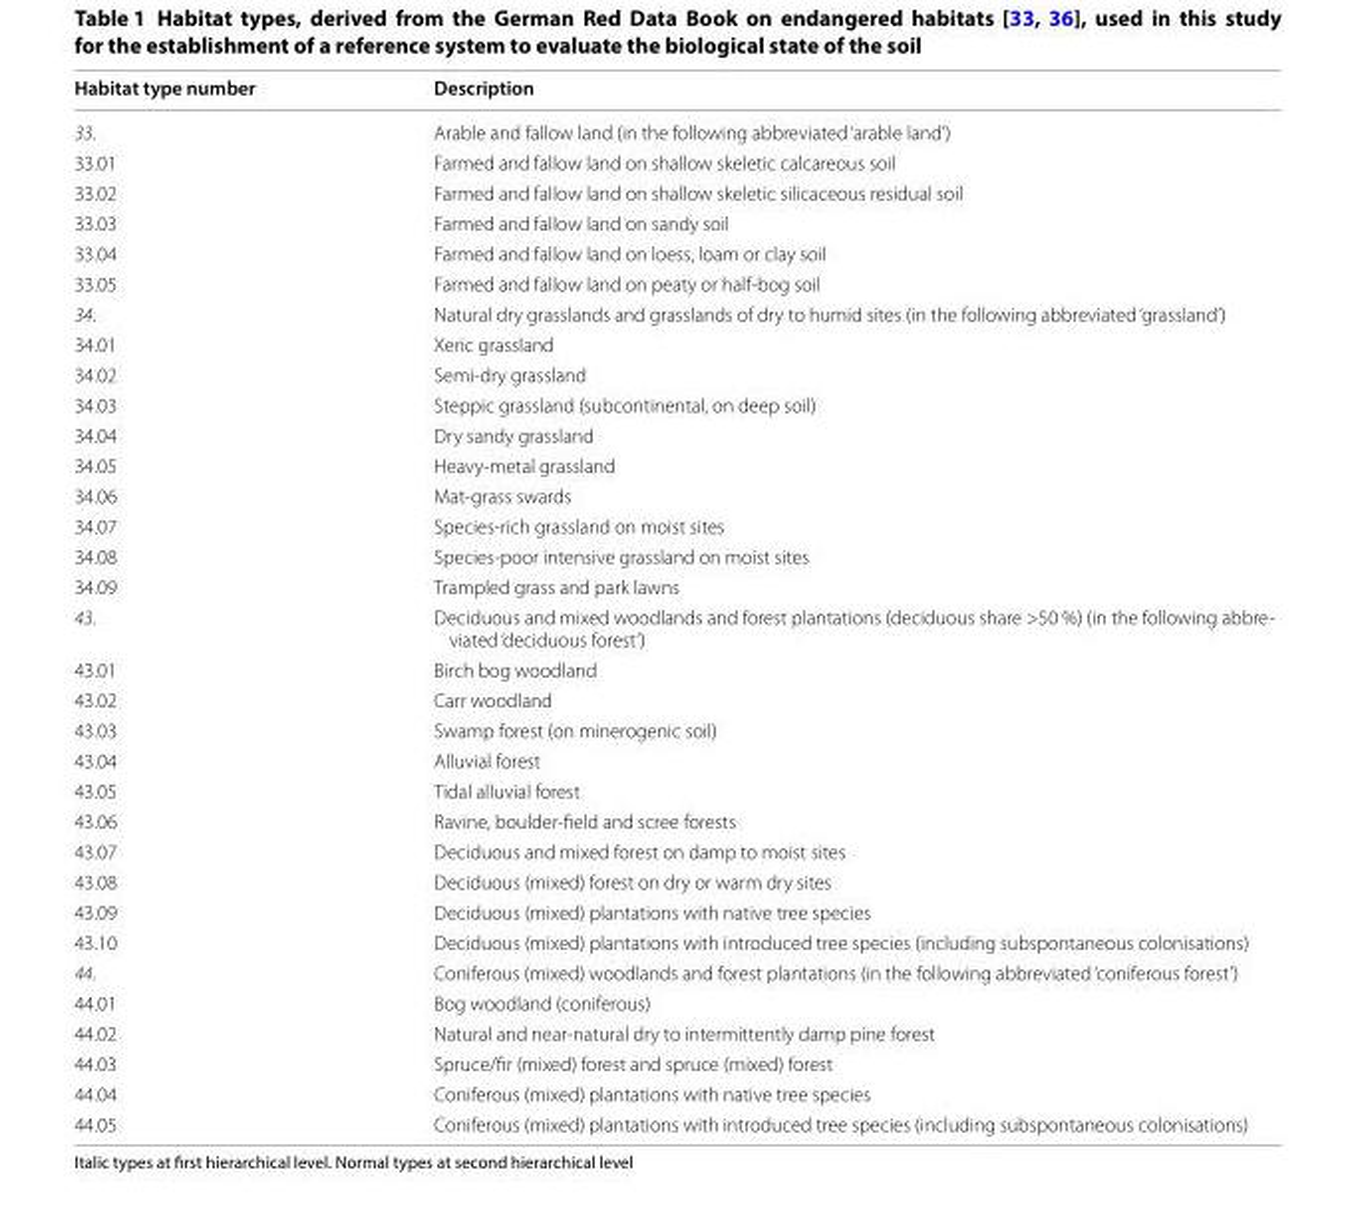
<table><thead><tr><td>Habitat type number</td><td>Description</td></tr></thead><tbody><tr><td>33.</td><td>Arable and fallow land (in the following abbreviated ‘arable land’)</td></tr><tr><td>33.01</td><td>Farmed and fallow land on shallow skeletic calcareous soil</td></tr><tr><td>33.02</td><td>Farmed and fallow land on shallow skeletic silicaceous residual soil</td></tr><tr><td>33.03</td><td>Farmed and fallow land on sandy soil</td></tr><tr><td>33.04</td><td>Farmed and fallow land on loess, loam or clay soil</td></tr><tr><td>33.05</td><td>Farmed and fallow land on peaty or half‑bog soil</td></tr><tr><td>34.</td><td>Natural dry grasslands and grasslands of dry to humid sites (in the following abbreviated ‘grassland’)</td></tr><tr><td>34.01</td><td>Xeric grassland</td></tr><tr><td>34.02</td><td>Semi‑dry grassland</td></tr><tr><td>34.03</td><td>Steppic grassland (subcontinental, on deep soil)</td></tr><tr><td>34.04</td><td>Dry sandy grassland</td></tr><tr><td>34.05</td><td>Heavy‑metal grassland</td></tr><tr><td>34.06</td><td>Mat‑grass swards</td></tr><tr><td>34.07</td><td>Species‑rich grassland on moist sites</td></tr><tr><td>34.08</td><td>Species‑poor intensive grassland on moist sites</td></tr><tr><td>34.09</td><td>Trampled grass and park lawns</td></tr><tr><td>43.</td><td>Deciduous and mixed woodlands and forest plantations (deciduous share &gt;50 %) (in the following abbre‑ viated ‘deciduous forest’)</td></tr><tr><td>43.01</td><td>Birch bog woodland</td></tr><tr><td>43.02</td><td>Carr woodland</td></tr><tr><td>43.03</td><td>Swamp forest (on minerogenic soil)</td></tr><tr><td>43.04</td><td>Alluvial forest</td></tr><tr><td>43.05</td><td>Tidal alluvial forest</td></tr><tr><td>43.06</td><td>Ravine, boulder‑field and scree forests</td></tr><tr><td>43.07</td><td>Deciduous and mixed forest on damp to moist sites</td></tr><tr><td>43.08</td><td>Deciduous (mixed) forest on dry or warm dry sites</td></tr><tr><td>43.09</td><td>Deciduous (mixed) plantations with native tree species</td></tr><tr><td>43.10</td><td>Deciduous (mixed) plantations with introduced tree species (including subspontaneous colonisations)</td></tr><tr><td>44.</td><td>Coniferous (mixed) woodlands and forest plantations (in the following abbreviated ‘coniferous forest’)</td></tr><tr><td>44.01</td><td>Bog woodland (coniferous)</td></tr><tr><td>44.02</td><td>Natural and near‑natural dry to intermittently damp pine forest</td></tr><tr><td>44.03</td><td>Spruce/fir (mixed) forest and spruce (mixed) forest</td></tr><tr><td>44.04</td><td>Coniferous (mixed) plantations with native tree species</td></tr><tr><td>44.05</td><td>Coniferous (mixed) plantations with introduced tree species (including subspontaneous colonisations)</td></tr></tbody></table>